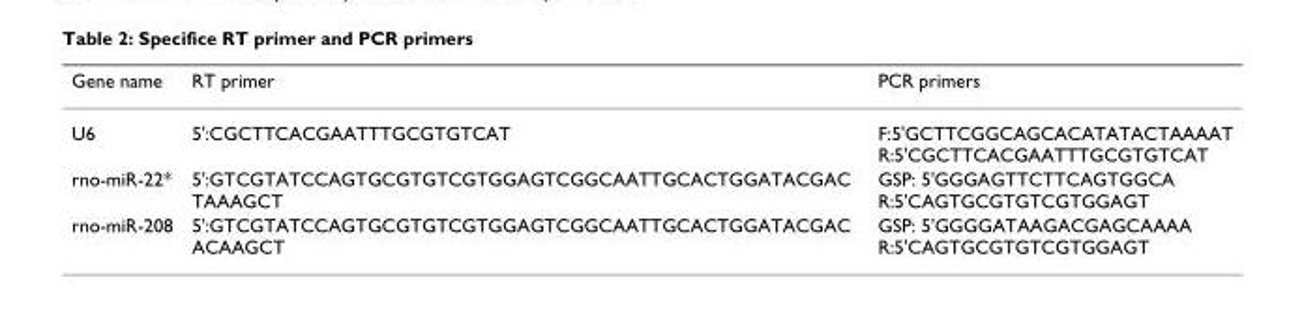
<table><thead><tr><td>Gene name</td><td>RT primer</td><td>PCR primers</td></tr></thead><tbody><tr><td>U6</td><td>5&#x27;:CGCTTCACGAATTTGCGTGTCAT</td><td>F:5&#x27;GCTTCGGCAGCACATATACTAAAAT R:5&#x27;CGCTTCACGAATTTGCGTGTCAT</td></tr><tr><td>rno-miR-22*</td><td>5&#x27;:GTCGTATCCAGTGCGTGTCGTGGAGTCGGCAATTGCACTGGATACGAC TAAAGCT</td><td>GSP: 5&#x27;GGGAGTTCTTCAGTGGCA R:5&#x27;CAGTGCGTGTCGTGGAGT</td></tr><tr><td>rno-miR-208</td><td>5&#x27;:GTCGTATCCAGTGCGTGTCGTGGAGTCGGCAATTGCACTGGATACGAC ACAAGCT</td><td>GSP: 5&#x27;GGGGATAAGACGAGCAAAA R:5&#x27;CAGTGCGTGTCGTGGAGT</td></tr></tbody></table>